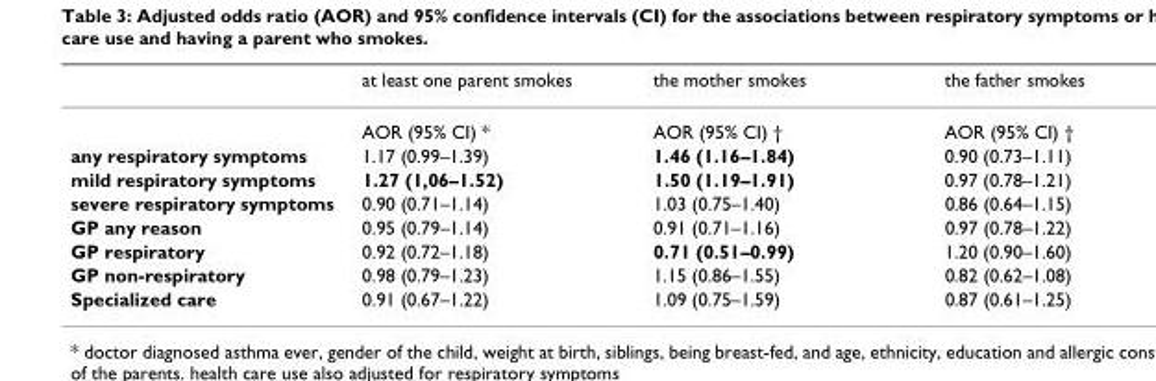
<table><thead><tr><td></td><td>at least one parent smokes</td><td>the mother smokes</td><td>the father smokes</td></tr></thead><tbody><tr><td></td><td>AOR (95% CI) *</td><td>AOR (95% CI) †</td><td>AOR (95% CI) †</td></tr><tr><td>any respiratory symptoms</td><td>1.17 (0.99–1.39)</td><td>1.46 (1.16–1.84)</td><td>0.90 (0.73–1.11)</td></tr><tr><td>mild respiratory symptoms</td><td>1.27 (1,06–1.52)</td><td>1.50 (1.19–1.91)</td><td>0.97 (0.78–1.21)</td></tr><tr><td>severe respiratory symptoms</td><td>0.90 (0.71–1.14)</td><td>1.03 (0.75–1.40)</td><td>0.86 (0.64–1.15)</td></tr><tr><td>GP any reason</td><td>0.95 (0.79–1.14)</td><td>0.91 (0.71–1.16)</td><td>0.97 (0.78–1.22)</td></tr><tr><td>GP respiratory</td><td>0.92 (0.72–1.18)</td><td>0.71 (0.51–0.99)</td><td>1.20 (0.90–1.60)</td></tr><tr><td>GP non-respiratory</td><td>0.98 (0.79–1.23)</td><td>1.15 (0.86–1.55)</td><td>0.82 (0.62–1.08)</td></tr><tr><td>Specialized care</td><td>0.91 (0.67–1.22)</td><td>1.09 (0.75–1.59)</td><td>0.87 (0.61–1.25)</td></tr></tbody></table>